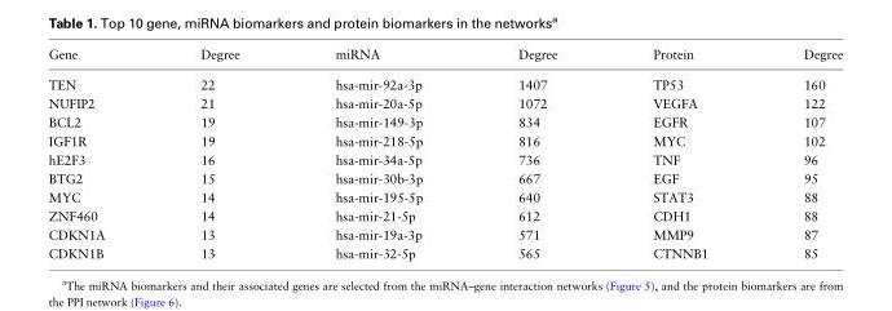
<table><thead><tr><td>Gene</td><td>Degree</td><td>miRNA</td><td>Degree</td><td>Protein</td><td>Degree</td></tr></thead><tbody><tr><td>TEN</td><td>22</td><td>hsa-mir-92a-3p</td><td>1407</td><td>TP53</td><td>160</td></tr><tr><td>NUFIP2</td><td>21</td><td>hsa-mir-20a-5p</td><td>1072</td><td>VEGFA</td><td>122</td></tr><tr><td>BCL2</td><td>19</td><td>hsa-mir-149-3p</td><td>834</td><td>EGFR</td><td>107</td></tr><tr><td>IGF1R</td><td>19</td><td>hsa-mir-218-5p</td><td>816</td><td>MYC</td><td>102</td></tr><tr><td>hE2F3</td><td>16</td><td>hsa-mir-34a-5p</td><td>736</td><td>TNF</td><td>96</td></tr><tr><td>BTG2</td><td>15</td><td>hsa-mir-30b-3p</td><td>667</td><td>EGF</td><td>95</td></tr><tr><td>MYC</td><td>14</td><td>hsa-mir-195-5p</td><td>640</td><td>STAT3</td><td>88</td></tr><tr><td>ZNF460</td><td>14</td><td>hsa-mir-21-5p</td><td>612</td><td>CDH1</td><td>88</td></tr><tr><td>CDKN1A</td><td>13</td><td>hsa-mir-19a-3p</td><td>571</td><td>MMP9</td><td>87</td></tr><tr><td>CDKN1B</td><td>13</td><td>hsa-mir-32-5p</td><td>565</td><td>CTNNB1</td><td>85</td></tr></tbody></table>